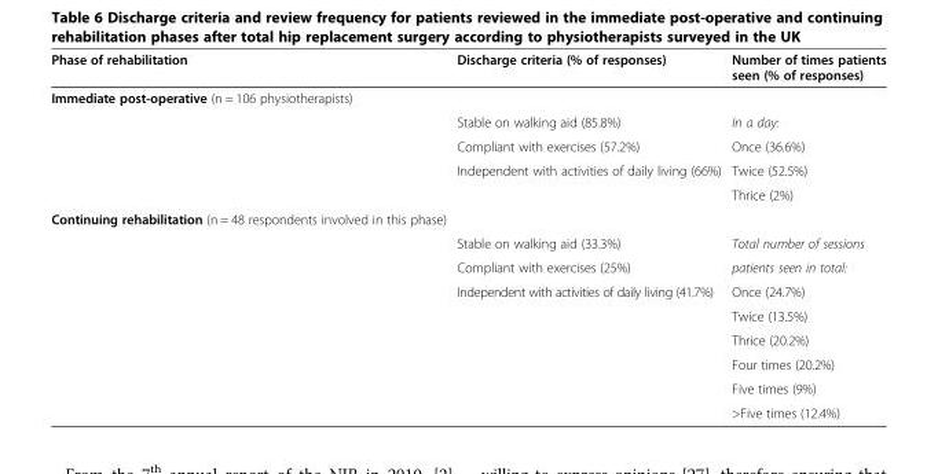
<table><thead><tr><td>Phase of rehabilitation</td><td>Discharge criteria (% of responses)</td><td>Number of times patients seen (% of responses)</td></tr></thead><tbody><tr><td colspan="3">Immediate post-operative (n = 106 physiotherapists)</td></tr><tr><td rowspan="4"></td><td>Stable on walking aid (85.8%)</td><td>In a day:</td></tr><tr><td>Compliant with exercises (57.2%)</td><td>Once (36.6%)</td></tr><tr><td rowspan="2">Independent with activities of daily living (66%)</td><td>Twice (52.5%)</td></tr><tr><td>Thrice (2%)</td></tr><tr><td colspan="3">Continuing rehabilitation (n = 48 respondents involved in this phase)</td></tr><tr><td rowspan="8"></td><td>Stable on walking aid (33.3%)</td><td>Total number of sessions</td></tr><tr><td>Compliant with exercises (25%)</td><td>patients seen in total:</td></tr><tr><td rowspan="6">Independent with activities of daily living (41.7%)</td><td>Once (24.7%)</td></tr><tr><td>Twice (13.5%)</td></tr><tr><td>Thrice (20.2%)</td></tr><tr><td>Four times (20.2%)</td></tr><tr><td>Five times (9%)</td></tr><tr><td>&gt;Five times (12.4%)</td></tr></tbody></table>